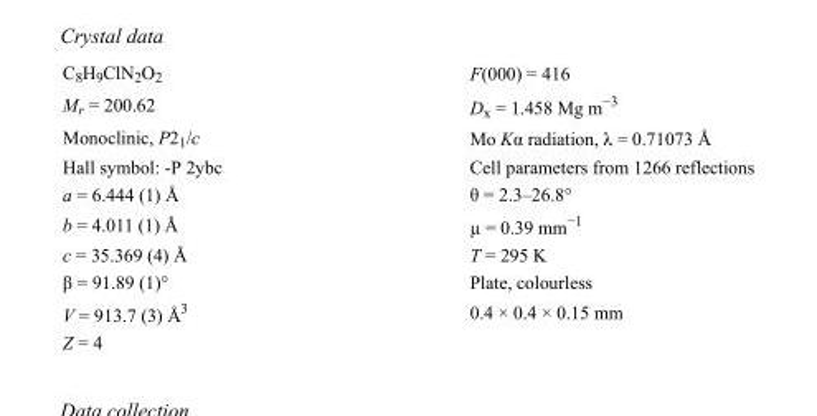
<table><tbody><tr><td>C<sub>8</sub>H<sub>9</sub>ClN<sub>2</sub>O<sub>2</sub></td><td>F(000) = 416</td></tr><tr><td>M<sub>r</sub> = 200.62</td><td>D<sub>x</sub> = 1.458 Mg m<sup>−3</sup></td></tr><tr><td>Monoclinic, P2<sub>1</sub>/c</td><td>Mo Kα radiation, λ = 0.71073 Å</td></tr><tr><td>Hall symbol: -P 2ybc</td><td>Cell parameters from 1266 reflections</td></tr><tr><td>a = 6.444 (1) Å</td><td>θ = 2.3–26.8°</td></tr><tr><td>b = 4.011 (1) Å</td><td>µ = 0.39 mm<sup>−1</sup></td></tr><tr><td>c = 35.369 (4) Å</td><td>T = 295 K</td></tr><tr><td>β = 91.89 (1)°</td><td>Plate, colourless</td></tr><tr><td>V = 913.7 (3) Å<sup>3</sup></td><td>0.4 × 0.4 × 0.15 mm</td></tr><tr><td>Z = 4</td><td></td></tr></tbody></table>